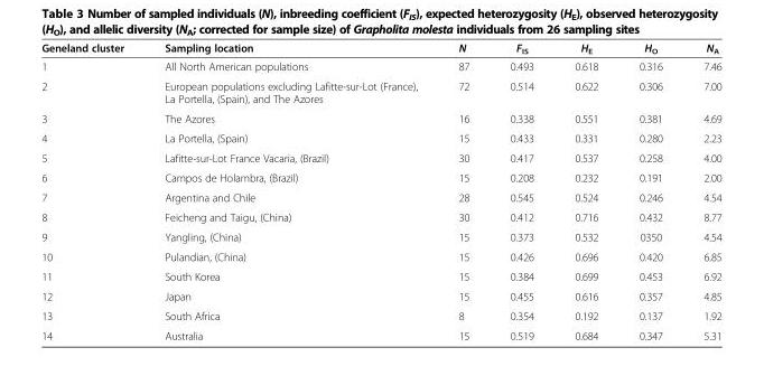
<table><thead><tr><td>Geneland cluster</td><td>Sampling location</td><td>N</td><td>F<sub>IS</sub></td><td>H<sub>E</sub></td><td>H<sub>O</sub></td><td>N<sub>A</sub></td></tr></thead><tbody><tr><td>1</td><td>All North American populations</td><td>87</td><td>0.493</td><td>0.618</td><td>0.316</td><td>7.46</td></tr><tr><td>2</td><td>European populations excluding Lafitte-sur-Lot (France), La Portella, (Spain), and The Azores</td><td>72</td><td>0.514</td><td>0.622</td><td>0.306</td><td>7.00</td></tr><tr><td>3</td><td>The Azores</td><td>16</td><td>0.338</td><td>0.551</td><td>0.381</td><td>4.69</td></tr><tr><td>4</td><td>La Portella, (Spain)</td><td>15</td><td>0.433</td><td>0.331</td><td>0.280</td><td>2.23</td></tr><tr><td>5</td><td>Lafitte-sur-Lot France Vacaria, (Brazil)</td><td>30</td><td>0.417</td><td>0.537</td><td>0.258</td><td>4.00</td></tr><tr><td>6</td><td>Campos de Holambra, (Brazil)</td><td>15</td><td>0.208</td><td>0.232</td><td>0.191</td><td>2.00</td></tr><tr><td>7</td><td>Argentina and Chile</td><td>28</td><td>0.545</td><td>0.524</td><td>0.246</td><td>4.54</td></tr><tr><td>8</td><td>Feicheng and Taigu, (China)</td><td>30</td><td>0.412</td><td>0.716</td><td>0.432</td><td>8.77</td></tr><tr><td>9</td><td>Yangling, (China)</td><td>15</td><td>0.373</td><td>0.532</td><td>0350</td><td>4.54</td></tr><tr><td>10</td><td>Pulandian, (China)</td><td>15</td><td>0.426</td><td>0.696</td><td>0.420</td><td>6.85</td></tr><tr><td>11</td><td>South Korea</td><td>15</td><td>0.384</td><td>0.699</td><td>0.453</td><td>6.92</td></tr><tr><td>12</td><td>Japan</td><td>15</td><td>0.455</td><td>0.616</td><td>0.357</td><td>4.85</td></tr><tr><td>13</td><td>South Africa</td><td>8</td><td>0.354</td><td>0.192</td><td>0.137</td><td>1.92</td></tr><tr><td>14</td><td>Australia</td><td>15</td><td>0.519</td><td>0.684</td><td>0.347</td><td>5.31</td></tr></tbody></table>